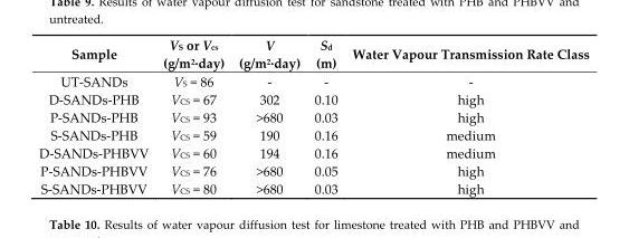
<table><thead><tr><td>Sample</td><td>V<sub>S</sub> or V<sub>cs</sub> (g/m<sup>2</sup>·day)</td><td>V (g/m<sup>2</sup>·day)</td><td>S<sub>d</sub> (m)</td><td>Water Vapour Transmission Rate Class</td></tr></thead><tbody><tr><td>UT-SANDs</td><td>V<sub>S</sub> = 86</td><td>-</td><td>-</td><td>-</td></tr><tr><td>D-SANDs-PHB</td><td>V<sub>CS</sub> = 67</td><td>302</td><td>0.10</td><td>high</td></tr><tr><td>P-SANDs-PHB</td><td>V<sub>CS</sub> = 93</td><td>&gt;680</td><td>0.03</td><td>high</td></tr><tr><td>S-SANDs-PHB</td><td>V<sub>CS</sub> = 59</td><td>190</td><td>0.16</td><td>medium</td></tr><tr><td>D-SANDs-PHBVV</td><td>V<sub>CS</sub> = 60</td><td>194</td><td>0.16</td><td>medium</td></tr><tr><td>P-SANDs-PHBVV</td><td>V<sub>CS</sub> = 76</td><td>&gt;680</td><td>0.05</td><td>high</td></tr><tr><td>S-SANDs-PHBVV</td><td>V<sub>CS</sub> = 80</td><td>&gt;680</td><td>0.03</td><td>high</td></tr></tbody></table>